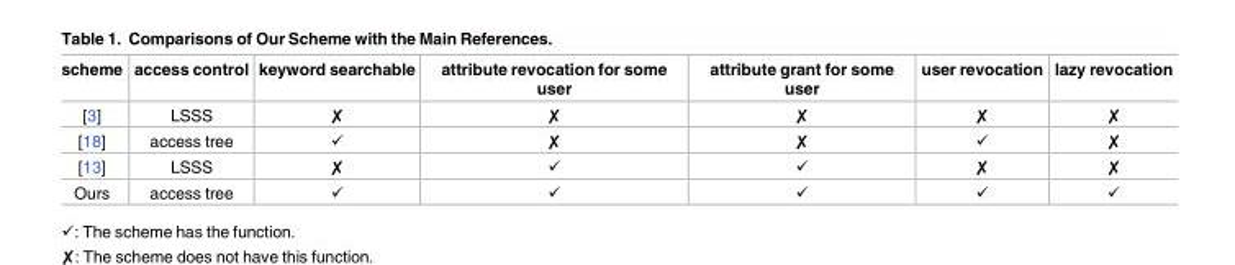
<table><thead><tr><td>scheme</td><td>access control</td><td>keyword searchable</td><td>attribute revocation for some user</td><td>attribute grant for some user</td><td>user revocation</td><td>lazy revocation</td></tr></thead><tbody><tr><td>[3]</td><td>LSSS</td><td>✘</td><td>✘</td><td>✘</td><td>✘</td><td>✘</td></tr><tr><td>[18]</td><td>access tree</td><td>✓</td><td>✘</td><td>✘</td><td>✓</td><td>✘</td></tr><tr><td>[13]</td><td>LSSS</td><td>✘</td><td>✓</td><td>✓</td><td>✘</td><td>✘</td></tr><tr><td>Ours</td><td>access tree</td><td>✓</td><td>✓</td><td>✓</td><td>✓</td><td>✓</td></tr></tbody></table>